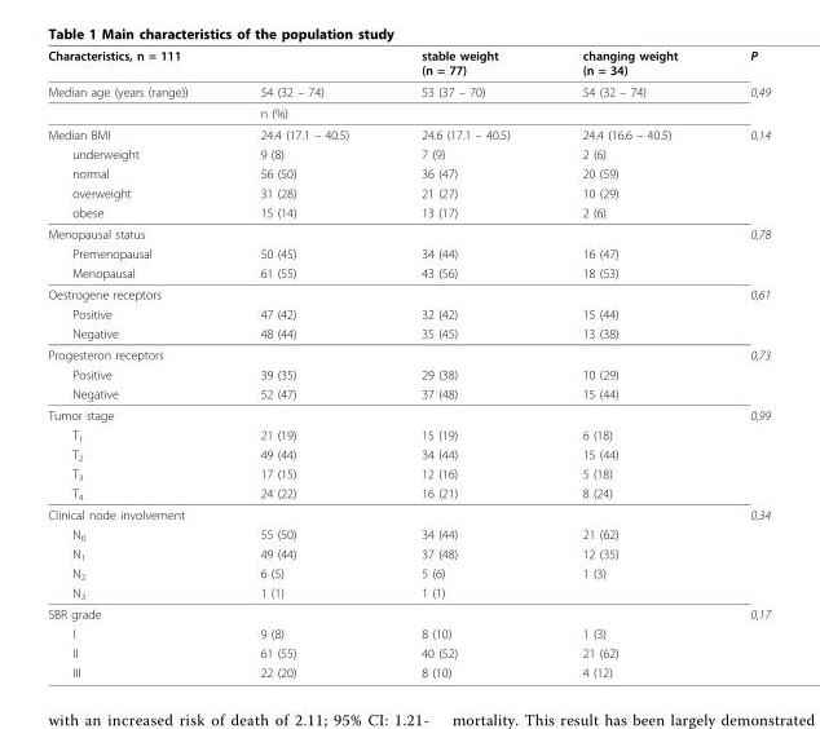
<table><tbody><tr><td>Characteristics, n = 111</td><td></td><td>stable weight (n = 77)</td><td>changing weight (n = 34)</td><td>P</td></tr><tr><td rowspan="2">Median age (years (range))</td><td>54 (32 – 74)</td><td>53 (37 – 70)</td><td>54 (32 – 74)</td><td>0,49</td></tr><tr><td>n (%)</td><td></td><td></td><td></td></tr><tr><td>Median BMI</td><td>24.4 (17.1 – 40.5)</td><td>24.6 (17.1 – 40.5)</td><td>24.4 (16.6 – 40.5)</td><td>0,14</td></tr><tr><td>underweight</td><td>9 (8)</td><td>7 (9)</td><td>2 (6)</td><td></td></tr><tr><td>normal</td><td>56 (50)</td><td>36 (47)</td><td>20 (59)</td><td></td></tr><tr><td>overweight</td><td>31 (28)</td><td>21 (27)</td><td>10 (29)</td><td></td></tr><tr><td>obese</td><td>15 (14)</td><td>13 (17)</td><td>2 (6)</td><td></td></tr><tr><td>Menopausal status</td><td></td><td></td><td></td><td>0,78</td></tr><tr><td>Premenopausal</td><td>50 (45)</td><td>34 (44)</td><td>16 (47)</td><td></td></tr><tr><td>Menopausal</td><td>61 (55)</td><td>43 (56)</td><td>18 (53)</td><td></td></tr><tr><td>Oestrogene receptors</td><td></td><td></td><td></td><td>0,61</td></tr><tr><td>Positive</td><td>47 (42)</td><td>32 (42)</td><td>15 (44)</td><td></td></tr><tr><td>Negative</td><td>48 (44)</td><td>35 (45)</td><td>13 (38)</td><td></td></tr><tr><td>Progesteron receptors</td><td></td><td></td><td></td><td>0,73</td></tr><tr><td>Positive</td><td>39 (35)</td><td>29 (38)</td><td>10 (29)</td><td></td></tr><tr><td>Negative</td><td>52 (47)</td><td>37 (48)</td><td>15 (44)</td><td></td></tr><tr><td>Tumor stage</td><td></td><td></td><td></td><td>0,99</td></tr><tr><td>T<sub>1</sub></td><td>21 (19)</td><td>15 (19)</td><td>6 (18)</td><td></td></tr><tr><td>T<sub>2</sub></td><td>49 (44)</td><td>34 (44)</td><td>15 (44)</td><td></td></tr><tr><td>T<sub>3</sub></td><td>17 (15)</td><td>12 (16)</td><td>5 (18)</td><td></td></tr><tr><td>T<sub>4</sub></td><td>24 (22)</td><td>16 (21)</td><td>8 (24)</td><td></td></tr><tr><td>Clinical node involvement</td><td></td><td></td><td></td><td>0,34</td></tr><tr><td>N<sub>0</sub></td><td>55 (50)</td><td>34 (44)</td><td>21 (62)</td><td></td></tr><tr><td>N<sub>1</sub></td><td>49 (44)</td><td>37 (48)</td><td>12 (35)</td><td></td></tr><tr><td>N<sub>2</sub></td><td>6 (5)</td><td>5 (6)</td><td>1 (3)</td><td></td></tr><tr><td>N<sub>3</sub></td><td>1 (1)</td><td>1 (1)</td><td></td><td></td></tr><tr><td>SBR grade</td><td></td><td></td><td></td><td>0,17</td></tr><tr><td>I</td><td>9 (8)</td><td>8 (10)</td><td>1 (3)</td><td></td></tr><tr><td>II</td><td>61 (55)</td><td>40 (52)</td><td>21 (62)</td><td></td></tr><tr><td>III</td><td>22 (20)</td><td>8 (10)</td><td>4 (12)</td><td></td></tr></tbody></table>